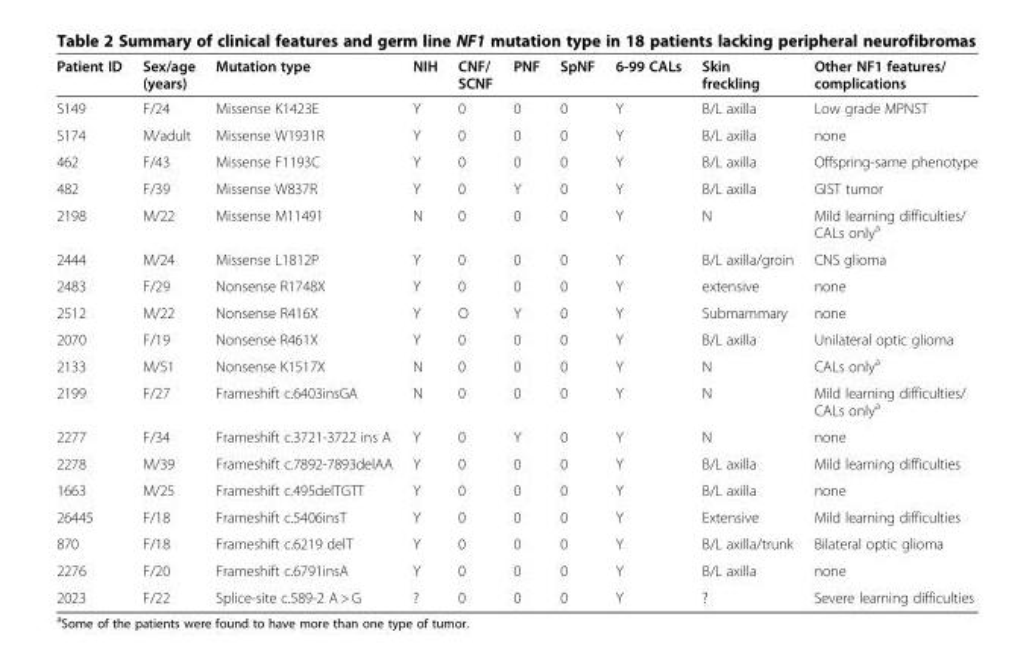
<table><thead><tr><td>Patient ID</td><td>Sex/age (years)</td><td>Mutation type</td><td>NIH</td><td>CNF/ SCNF</td><td>PNF</td><td>SpNF</td><td>6-99 CALs</td><td>Skin freckling</td><td>Other NF1 features/ complications</td></tr></thead><tbody><tr><td>S149</td><td>F/24</td><td>Missense K1423E</td><td>Y</td><td>0</td><td>0</td><td>0</td><td>Y</td><td>B/L axilla</td><td>Low grade MPNST</td></tr><tr><td>S174</td><td>M/adult</td><td>Missense W1931R</td><td>Y</td><td>0</td><td>0</td><td>0</td><td>Y</td><td>B/L axilla</td><td>none</td></tr><tr><td>462</td><td>F/43</td><td>Missense F1193C</td><td>Y</td><td>0</td><td>0</td><td>0</td><td>Y</td><td>B/L axilla</td><td>Offspring-same phenotype</td></tr><tr><td>482</td><td>F/39</td><td>Missense W837R</td><td>Y</td><td>0</td><td>Y</td><td>0</td><td>Y</td><td>B/L axilla</td><td>GIST tumor</td></tr><tr><td>2198</td><td>M/22</td><td>Missense M11491</td><td>N</td><td>0</td><td>0</td><td>0</td><td>Y</td><td>N</td><td>Mild learning difficulties/ CALs only<sup>a</sup></td></tr><tr><td>2444</td><td>M/24</td><td>Missense L1812P</td><td>Y</td><td>0</td><td>0</td><td>0</td><td>Y</td><td>B/L axilla/groin</td><td>CNS glioma</td></tr><tr><td>2483</td><td>F/29</td><td>Nonsense R1748X</td><td>Y</td><td>0</td><td>0</td><td>0</td><td>Y</td><td>extensive</td><td>none</td></tr><tr><td>2512</td><td>M/22</td><td>Nonsense R416X</td><td>Y</td><td>O</td><td>Y</td><td>0</td><td>Y</td><td>Submammary</td><td>none</td></tr><tr><td>2070</td><td>F/19</td><td>Nonsense R461X</td><td>Y</td><td>0</td><td>0</td><td>0</td><td>Y</td><td>B/L axilla</td><td>Unilateral optic glioma</td></tr><tr><td>2133</td><td>M/51</td><td>Nonsense K1517X</td><td>N</td><td>0</td><td>0</td><td>0</td><td>Y</td><td>N</td><td>CALs only<sup>a</sup></td></tr><tr><td>2199</td><td>F/27</td><td>Frameshift c.6403insGA</td><td>N</td><td>0</td><td>0</td><td>0</td><td>Y</td><td>N</td><td>Mild learning difficulties/ CALs only<sup>a</sup></td></tr><tr><td>2277</td><td>F/34</td><td>Frameshift c.3721-3722 ins A</td><td>Y</td><td>0</td><td>Y</td><td>0</td><td>Y</td><td>N</td><td>none</td></tr><tr><td>2278</td><td>M/39</td><td>Frameshift c.7892-7893delAA</td><td>Y</td><td>0</td><td>0</td><td>0</td><td>Y</td><td>B/L axilla</td><td>Mild learning difficulties</td></tr><tr><td>1663</td><td>M/25</td><td>Frameshift c.495delTGTT</td><td>Y</td><td>0</td><td>0</td><td>0</td><td>Y</td><td>B/L axilla</td><td>none</td></tr><tr><td>26445</td><td>F/18</td><td>Frameshift c.5406insT</td><td>Y</td><td>0</td><td>0</td><td>0</td><td>Y</td><td>Extensive</td><td>Mild learning difficulties</td></tr><tr><td>870</td><td>F/18</td><td>Frameshift c.6219 delT</td><td>Y</td><td>0</td><td>0</td><td>0</td><td>Y</td><td>B/L axilla/trunk</td><td>Bilateral optic glioma</td></tr><tr><td>2276</td><td>F/20</td><td>Frameshift c.6791insA</td><td>Y</td><td>0</td><td>0</td><td>0</td><td>Y</td><td>B/L axilla</td><td>none</td></tr><tr><td>2023</td><td>F/22</td><td>Splice-site c.589-2 A &gt; G</td><td>?</td><td>0</td><td>0</td><td>0</td><td>Y</td><td>?</td><td>Severe learning difficulties</td></tr></tbody></table>